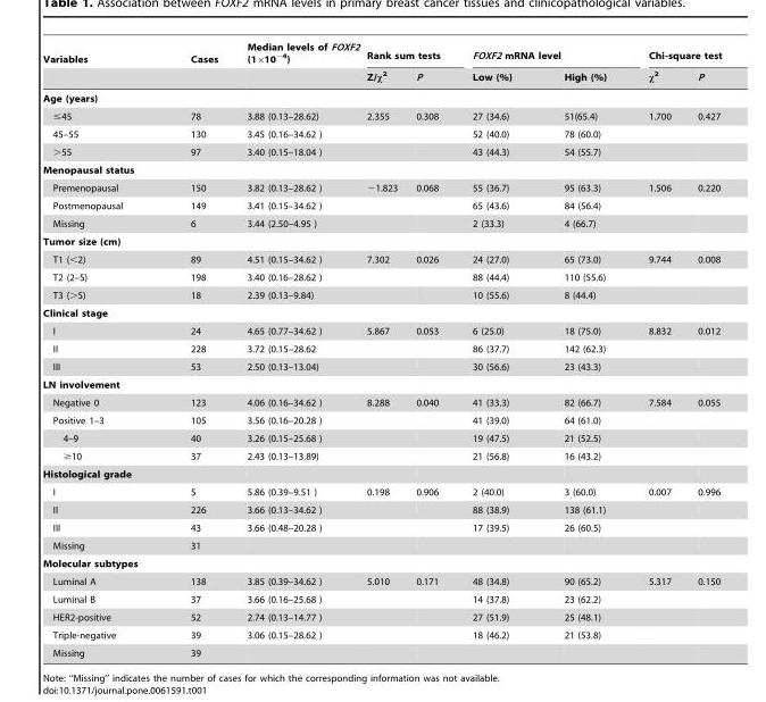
<table><thead><tr><td rowspan="2">Variables</td><td rowspan="2">Cases</td><td rowspan="2">Median levels of FOXF2 (1×10<sup>−4</sup>)</td><td colspan="2">Rank sum tests</td><td colspan="2">FOXF2 mRNA level</td><td colspan="2">Chi-square test</td></tr><tr><td>Z/χ<sup>2</sup></td><td>P</td><td>Low (%)</td><td>High (%)</td><td>χ<sup>2</sup></td><td>P</td></tr></thead><tbody><tr><td colspan="9">Age (years)</td></tr><tr><td>≤45</td><td>78</td><td>3.88 (0.13–28.62)</td><td>2.355</td><td>0.308</td><td>27 (34.6)</td><td>51(65.4)</td><td>1.700</td><td>0.427</td></tr><tr><td>45–55</td><td>130</td><td>3.45 (0.16–34.62 )</td><td></td><td></td><td>52 (40.0)</td><td>78 (60.0)</td><td></td><td></td></tr><tr><td>&gt;55</td><td>97</td><td>3.40 (0.15–18.04 )</td><td></td><td></td><td>43 (44.3)</td><td>54 (55.7)</td><td></td><td></td></tr><tr><td colspan="9">Menopausal status</td></tr><tr><td>Premenopausal</td><td>150</td><td>3.82 (0.13–28.62 )</td><td>−1.823</td><td>0.068</td><td>55 (36.7)</td><td>95 (63.3)</td><td>1.506</td><td>0.220</td></tr><tr><td>Postmenopausal</td><td>149</td><td>3.41 (0.15–34.62 )</td><td></td><td></td><td>65 (43.6)</td><td>84 (56.4)</td><td></td><td></td></tr><tr><td>Missing</td><td>6</td><td>3.44 (2.50–4.95 )</td><td></td><td></td><td>2 (33.3)</td><td>4 (66.7)</td><td></td><td></td></tr><tr><td colspan="9">Tumor size (cm)</td></tr><tr><td>T1 (&lt;2)</td><td>89</td><td>4.51 (0.15–34.62 )</td><td>7.302</td><td>0.026</td><td>24 (27.0)</td><td>65 (73.0)</td><td>9.744</td><td>0.008</td></tr><tr><td>T2 (2–5)</td><td>198</td><td>3.40 (0.16–28.62 )</td><td></td><td></td><td>88 (44.4)</td><td>110 (55.6)</td><td></td><td></td></tr><tr><td>T3 (&gt;5)</td><td>18</td><td>2.39 (0.13–9.84)</td><td></td><td></td><td>10 (55.6)</td><td>8 (44.4)</td><td></td><td></td></tr><tr><td colspan="9">Clinical stage</td></tr><tr><td>I</td><td>24</td><td>4.65 (0.77–34.62 )</td><td>5.867</td><td>0.053</td><td>6 (25.0)</td><td>18 (75.0)</td><td>8.832</td><td>0.012</td></tr><tr><td>II</td><td>228</td><td>3.72 (0.15–28.62</td><td></td><td></td><td>86 (37.7)</td><td>142 (62.3)</td><td></td><td></td></tr><tr><td>III</td><td>53</td><td>2.50 (0.13–13.04)</td><td></td><td></td><td>30 (56.6)</td><td>23 (43.3)</td><td></td><td></td></tr><tr><td colspan="9">LN involvement</td></tr><tr><td>Negative 0</td><td>123</td><td>4.06 (0.16–34.62 )</td><td>8.288</td><td>0.040</td><td>41 (33.3)</td><td>82 (66.7)</td><td>7.584</td><td>0.055</td></tr><tr><td>Positive 1–3</td><td>105</td><td>3.56 (0.16–20.28 )</td><td></td><td></td><td>41 (39.0)</td><td>64 (61.0)</td><td></td><td></td></tr><tr><td>4–9</td><td>40</td><td>3.26 (0.15–25.68 )</td><td></td><td></td><td>19 (47.5)</td><td>21 (52.5)</td><td></td><td></td></tr><tr><td>≥10</td><td>37</td><td>2.43 (0.13–13.89)</td><td></td><td></td><td>21 (56.8)</td><td>16 (43.2)</td><td></td><td></td></tr><tr><td colspan="9">Histological grade</td></tr><tr><td>I</td><td>5</td><td>5.86 (0.39–9.51 )</td><td>0.198</td><td>0.906</td><td>2 (40.0)</td><td>3 (60.0)</td><td>0.007</td><td>0.996</td></tr><tr><td>II</td><td>226</td><td>3.66 (0.13–34.62 )</td><td></td><td></td><td>88 (38.9)</td><td>138 (61.1)</td><td></td><td></td></tr><tr><td>III</td><td>43</td><td>3.66 (0.48–20.28 )</td><td></td><td></td><td>17 (39.5)</td><td>26 (60.5)</td><td></td><td></td></tr><tr><td>Missing</td><td>31</td><td></td><td></td><td></td><td></td><td></td><td></td><td></td></tr><tr><td colspan="9">Molecular subtypes</td></tr><tr><td>Luminal A</td><td>138</td><td>3.85 (0.39–34.62 )</td><td>5.010</td><td>0.171</td><td>48 (34.8)</td><td>90 (65.2)</td><td>5.317</td><td>0.150</td></tr><tr><td>Luminal B</td><td>37</td><td>3.66 (0.16–25.68 )</td><td></td><td></td><td>14 (37.8)</td><td>23 (62.2)</td><td></td><td></td></tr><tr><td>HER2-positive</td><td>52</td><td>2.74 (0.13–14.77 )</td><td></td><td></td><td>27 (51.9)</td><td>25 (48.1)</td><td></td><td></td></tr><tr><td>Triple-negative</td><td>39</td><td>3.06 (0.15–28.62 )</td><td></td><td></td><td>18 (46.2)</td><td>21 (53.8)</td><td></td><td></td></tr><tr><td>Missing</td><td>39</td><td></td><td></td><td></td><td></td><td></td><td></td><td></td></tr></tbody></table>